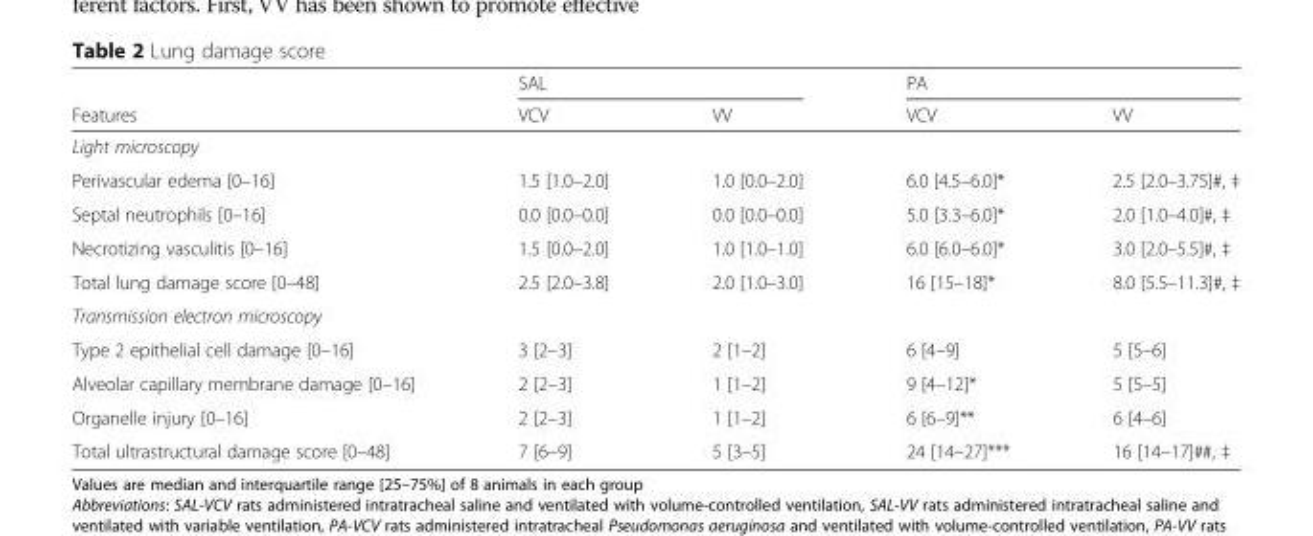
<table><thead><tr><td rowspan="2">Features</td><td colspan="2">SAL</td><td colspan="2">PA</td></tr><tr><td>VCV</td><td>VV</td><td>VCV</td><td>VV</td></tr></thead><tbody><tr><td colspan="5">Light microscopy</td></tr><tr><td>Perivascular edema [0–16]</td><td>1.5 [1.0–2.0]</td><td>1.0 [0.0–2.0]</td><td>6.0 [4.5–6.0]*</td><td>2.5 [2.0–3.75]#, ‡</td></tr><tr><td>Septal neutrophils [0–16]</td><td>0.0 [0.0–0.0]</td><td>0.0 [0.0–0.0]</td><td>5.0 [3.3–6.0]*</td><td>2.0 [1.0–4.0]#, ‡</td></tr><tr><td>Necrotizing vasculitis [0–16]</td><td>1.5 [0.0–2.0]</td><td>1.0 [1.0–1.0]</td><td>6.0 [6.0–6.0]*</td><td>3.0 [2.0–5.5]#, ‡</td></tr><tr><td>Total lung damage score [0–48]</td><td>2.5 [2.0–3.8]</td><td>2.0 [1.0–3.0]</td><td>16 [15–18]*</td><td>8.0 [5.5–11.3]#, ‡</td></tr><tr><td colspan="5">Transmission electron microscopy</td></tr><tr><td>Type 2 epithelial cell damage [0–16]</td><td>3 [2–3]</td><td>2 [1–2]</td><td>6 [4–9]</td><td>5 [5–6]</td></tr><tr><td>Alveolar capillary membrane damage [0–16]</td><td>2 [2–3]</td><td>1 [1–2]</td><td>9 [4–12]*</td><td>5 [5–5]</td></tr><tr><td>Organelle injury [0–16]</td><td>2 [2–3]</td><td>1 [1–2]</td><td>6 [6–9]**</td><td>6 [4–6]</td></tr><tr><td>Total ultrastructural damage score [0–48]</td><td>7 [6–9]</td><td>5 [3–5]</td><td>24 [14–27]***</td><td>16 [14–17]##, ‡</td></tr></tbody></table>